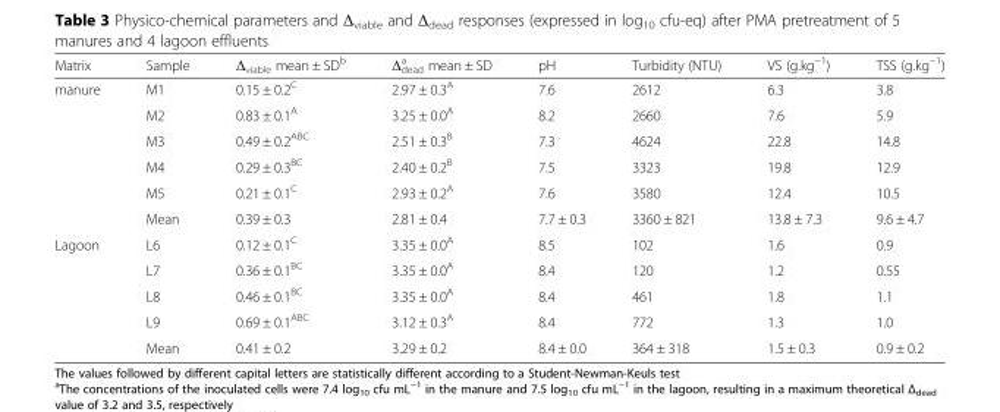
<table><thead><tr><td>Matrix</td><td>Sample</td><td>Δ<sub>viable</sub> mean ± SD<sup>b</sup></td><td>Δ<sub>dead</sub> <sup>a</sup> mean ± SD</td><td>pH</td><td>Turbidity (NTU)</td><td>VS (g.kg<sup>−1</sup>)</td><td>TSS (g.kg<sup>−1</sup>)</td></tr></thead><tbody><tr><td rowspan="6">manure</td><td>M1</td><td>0.15 ± 0.2<sup>C</sup></td><td>2.97 ± 0.3<sup>A</sup></td><td>7.6</td><td>2612</td><td>6.3</td><td>3.8</td></tr><tr><td>M2</td><td>0.83 ± 0.1<sup>A</sup></td><td>3.25 ± 0.0<sup>A</sup></td><td>8.2</td><td>2660</td><td>7.6</td><td>5.9</td></tr><tr><td>M3</td><td>0.49 ± 0.2<sup>ABC</sup></td><td>2.51 ± 0.3<sup>B</sup></td><td>7.3</td><td>4624</td><td>22.8</td><td>14.8</td></tr><tr><td>M4</td><td>0.29 ± 0.3<sup>BC</sup></td><td>2.40 ± 0.2<sup>B</sup></td><td>7.5</td><td>3323</td><td>19.8</td><td>12.9</td></tr><tr><td>M5</td><td>0.21 ± 0.1<sup>C</sup></td><td>2.93 ± 0.2<sup>A</sup></td><td>7.6</td><td>3580</td><td>12.4</td><td>10.5</td></tr><tr><td>Mean</td><td>0.39 ± 0.3</td><td>2.81 ± 0.4</td><td>7.7 ± 0.3</td><td>3360 ± 821</td><td>13.8 ± 7.3</td><td>9.6 ± 4.7</td></tr><tr><td rowspan="5">Lagoon</td><td>L6</td><td>0.12 ± 0.1<sup>C</sup></td><td>3.35 ± 0.0<sup>A</sup></td><td>8.5</td><td>102</td><td>1.6</td><td>0.9</td></tr><tr><td>L7</td><td>0.36 ± 0.1<sup>BC</sup></td><td>3.35 ± 0.0<sup>A</sup></td><td>8.4</td><td>120</td><td>1.2</td><td>0.55</td></tr><tr><td>L8</td><td>0.46 ± 0.1<sup>BC</sup></td><td>3.35 ± 0.0<sup>A</sup></td><td>8.4</td><td>461</td><td>1.8</td><td>1.1</td></tr><tr><td>L9</td><td>0.69 ± 0.1<sup>ABC</sup></td><td>3.12 ± 0.3<sup>A</sup></td><td>8.4</td><td>772</td><td>1.3</td><td>1.0</td></tr><tr><td>Mean</td><td>0.41 ± 0.2</td><td>3.29 ± 0.2</td><td>8.4 ± 0.0</td><td>364 ± 318</td><td>1.5 ± 0.3</td><td>0.9 ± 0.2</td></tr></tbody></table>